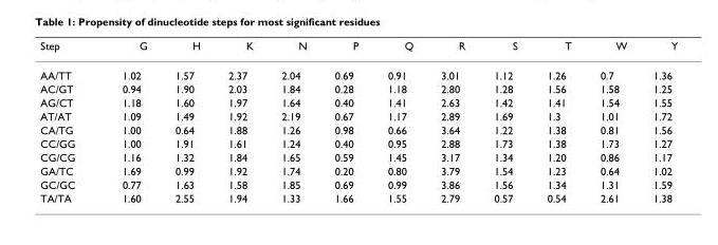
<table><thead><tr><td>Step</td><td>G</td><td>H</td><td>K</td><td>N</td><td>P</td><td>Q</td><td>R</td><td>S</td><td>T</td><td>W</td><td>Y</td></tr></thead><tbody><tr><td>AA/TT</td><td>1.02</td><td>1.57</td><td>2.37</td><td>2.04</td><td>0.69</td><td>0.91</td><td>3.01</td><td>1.12</td><td>1.26</td><td>0.7</td><td>1.36</td></tr><tr><td>AC/GT</td><td>0.94</td><td>1.90</td><td>2.03</td><td>1.84</td><td>0.28</td><td>1.18</td><td>2.80</td><td>1.28</td><td>1.56</td><td>1.58</td><td>1.25</td></tr><tr><td>AG/CT</td><td>1.18</td><td>1.60</td><td>1.97</td><td>1.64</td><td>0.40</td><td>1.41</td><td>2.63</td><td>1.42</td><td>1.41</td><td>1.54</td><td>1.55</td></tr><tr><td>AT/AT</td><td>1.09</td><td>1.49</td><td>1.92</td><td>2.19</td><td>0.67</td><td>1.17</td><td>2.89</td><td>1.69</td><td>1.3</td><td>1.01</td><td>1.72</td></tr><tr><td>CA/TG</td><td>1.00</td><td>0.64</td><td>1.88</td><td>1.26</td><td>0.98</td><td>0.66</td><td>3.64</td><td>1.22</td><td>1.38</td><td>0.81</td><td>1.56</td></tr><tr><td>CC/GG</td><td>1.00</td><td>1.91</td><td>1.61</td><td>1.24</td><td>0.40</td><td>0.95</td><td>2.88</td><td>1.73</td><td>1.38</td><td>1.73</td><td>1.27</td></tr><tr><td>CG/CG</td><td>1.16</td><td>1.32</td><td>1.84</td><td>1.65</td><td>0.59</td><td>1.45</td><td>3.17</td><td>1.34</td><td>1.20</td><td>0.86</td><td>1.17</td></tr><tr><td>GA/TC</td><td>1.69</td><td>0.99</td><td>1.92</td><td>1.74</td><td>0.20</td><td>0.80</td><td>3.79</td><td>1.54</td><td>1.23</td><td>0.64</td><td>1.02</td></tr><tr><td>GC/GC</td><td>0.77</td><td>1.63</td><td>1.58</td><td>1.85</td><td>0.69</td><td>0.99</td><td>3.86</td><td>1.56</td><td>1.34</td><td>1.31</td><td>1.59</td></tr><tr><td>TA/TA</td><td>1.60</td><td>2.55</td><td>1.94</td><td>1.33</td><td>1.66</td><td>1.55</td><td>2.79</td><td>0.57</td><td>0.54</td><td>2.61</td><td>1.38</td></tr></tbody></table>